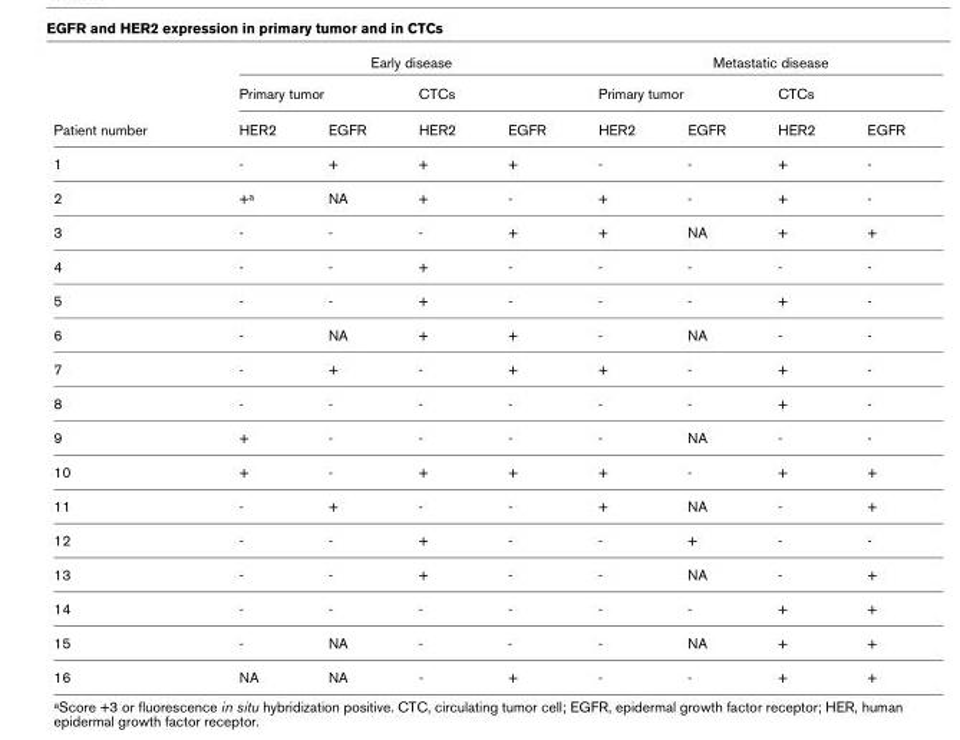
<table><thead><tr><td rowspan="3">Patient number</td><td colspan="4">Early disease</td><td colspan="4">Metastatic disease</td></tr><tr><td colspan="2">Primary tumor</td><td colspan="2">CTCs</td><td colspan="2">Primary tumor</td><td colspan="2">CTCs</td></tr><tr><td>HER2</td><td>EGFR</td><td>HER2</td><td>EGFR</td><td>HER2</td><td>EGFR</td><td>HER2</td><td>EGFR</td></tr></thead><tbody><tr><td>1</td><td>-</td><td>+</td><td>+</td><td>+</td><td>-</td><td>-</td><td>+</td><td>-</td></tr><tr><td>2</td><td>+<sup>a</sup></td><td>NA</td><td>+</td><td>-</td><td>+</td><td>-</td><td>+</td><td>-</td></tr><tr><td>3</td><td>-</td><td>-</td><td>-</td><td>+</td><td>+</td><td>NA</td><td>+</td><td>+</td></tr><tr><td>4</td><td>-</td><td>-</td><td>+</td><td>-</td><td>-</td><td>-</td><td>-</td><td>-</td></tr><tr><td>5</td><td>-</td><td>-</td><td>+</td><td>-</td><td>-</td><td>-</td><td>+</td><td>-</td></tr><tr><td>6</td><td>-</td><td>NA</td><td>+</td><td>+</td><td>-</td><td>NA</td><td>-</td><td>-</td></tr><tr><td>7</td><td>-</td><td>+</td><td>-</td><td>+</td><td>+</td><td>-</td><td>+</td><td>-</td></tr><tr><td>8</td><td>-</td><td>-</td><td>-</td><td>-</td><td>-</td><td>-</td><td>+</td><td>-</td></tr><tr><td>9</td><td>+</td><td>-</td><td>-</td><td>-</td><td>-</td><td>NA</td><td>-</td><td>-</td></tr><tr><td>10</td><td>+</td><td>-</td><td>+</td><td>+</td><td>+</td><td>-</td><td>+</td><td>+</td></tr><tr><td>11</td><td>-</td><td>+</td><td>-</td><td>-</td><td>+</td><td>NA</td><td>-</td><td>+</td></tr><tr><td>12</td><td>-</td><td>-</td><td>+</td><td>-</td><td>-</td><td>+</td><td>-</td><td>-</td></tr><tr><td>13</td><td>-</td><td>-</td><td>+</td><td>-</td><td>-</td><td>NA</td><td>-</td><td>+</td></tr><tr><td>14</td><td>-</td><td>-</td><td>-</td><td>-</td><td>-</td><td>-</td><td>+</td><td>+</td></tr><tr><td>15</td><td>-</td><td>NA</td><td>-</td><td>-</td><td>-</td><td>NA</td><td>+</td><td>+</td></tr><tr><td>16</td><td>NA</td><td>NA</td><td>-</td><td>+</td><td>-</td><td>-</td><td>+</td><td>+</td></tr></tbody></table>